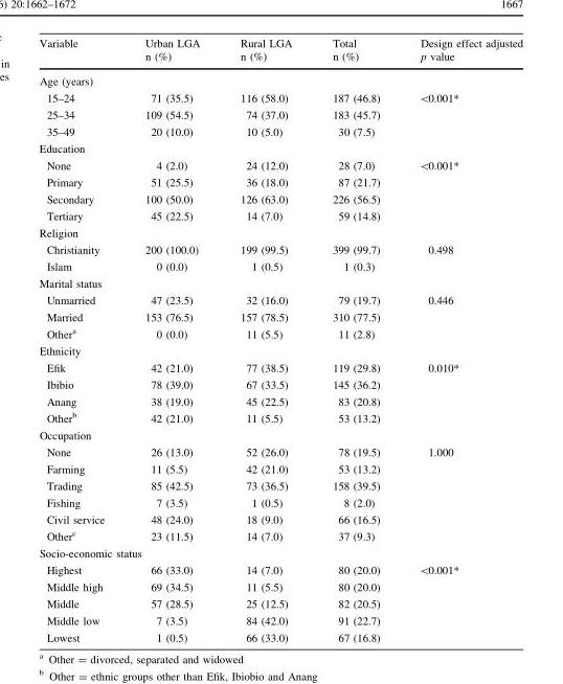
<table><thead><tr><td rowspan="2">Variable</td><td rowspan="2">Urban LGA n (%)</td><td rowspan="2">Rural LGA n (%)</td><td rowspan="2">Total n (%)</td><td rowspan="2">Design effect adjusted p value</td></tr><tr></tr></thead><tbody><tr><td colspan="5">Age (years)</td></tr><tr><td>15–24</td><td>71 (35.5)</td><td>116 (58.0)</td><td>187 (46.8)</td><td rowspan="3">&lt;0.001*</td></tr><tr><td>25–34</td><td>109 (54.5)</td><td>74 (37.0)</td><td>183 (45.7)</td></tr><tr><td>35–49</td><td>20 (10.0)</td><td>10 (5.0)</td><td>30 (7.5)</td></tr><tr><td colspan="5">Education</td></tr><tr><td>None</td><td>4 (2.0)</td><td>24 (12.0)</td><td>28 (7.0)</td><td rowspan="4">&lt;0.001*</td></tr><tr><td>Primary</td><td>51 (25.5)</td><td>36 (18.0)</td><td>87 (21.7)</td></tr><tr><td>Secondary</td><td>100 (50.0)</td><td>126 (63.0)</td><td>226 (56.5)</td></tr><tr><td>Tertiary</td><td>45 (22.5)</td><td>14 (7.0)</td><td>59 (14.8)</td></tr><tr><td colspan="5">Religion</td></tr><tr><td>Christianity</td><td>200 (100.0)</td><td>199 (99.5)</td><td>399 (99.7)</td><td rowspan="2">0.498</td></tr><tr><td>Islam</td><td>0 (0.0)</td><td>1 (0.5)</td><td>1 (0.3)</td></tr><tr><td colspan="5">Marital status</td></tr><tr><td>Unmarried</td><td>47 (23.5)</td><td>32 (16.0)</td><td>79 (19.7)</td><td rowspan="3">0.446</td></tr><tr><td>Married</td><td>153 (76.5)</td><td>157 (78.5)</td><td>310 (77.5)</td></tr><tr><td>Other<sup>a</sup></td><td>0 (0.0)</td><td>11 (5.5)</td><td>11 (2.8)</td></tr><tr><td colspan="5">Ethnicity</td></tr><tr><td>Efik</td><td>42 (21.0)</td><td>77 (38.5)</td><td>119 (29.8)</td><td rowspan="4">0.010*</td></tr><tr><td>Ibibio</td><td>78 (39.0)</td><td>67 (33.5)</td><td>145 (36.2)</td></tr><tr><td>Anang</td><td>38 (19.0)</td><td>45 (22.5)</td><td>83 (20.8)</td></tr><tr><td>Other<sup>b</sup></td><td>42 (21.0)</td><td>11 (5.5)</td><td>53 (13.2)</td></tr><tr><td colspan="5">Occupation</td></tr><tr><td>None</td><td>26 (13.0)</td><td>52 (26.0)</td><td>78 (19.5)</td><td rowspan="6">1.000</td></tr><tr><td>Farming</td><td>11 (5.5)</td><td>42 (21.0)</td><td>53 (13.2)</td></tr><tr><td>Trading</td><td>85 (42.5)</td><td>73 (36.5)</td><td>158 (39.5)</td></tr><tr><td>Fishing</td><td>7 (3.5)</td><td>1 (0.5)</td><td>8 (2.0)</td></tr><tr><td>Civil service</td><td>48 (24.0)</td><td>18 (9.0)</td><td>66 (16.5)</td></tr><tr><td>Other<sup>c</sup></td><td>23 (11.5)</td><td>14 (7.0)</td><td>37 (9.3)</td></tr><tr><td colspan="5">Socio-economic status</td></tr><tr><td>Highest</td><td>66 (33.0)</td><td>14 (7.0)</td><td>80 (20.0)</td><td rowspan="5">&lt;0.001*</td></tr><tr><td>Middle high</td><td>69 (34.5)</td><td>11 (5.5)</td><td>80 (20.0)</td></tr><tr><td>Middle</td><td>57 (28.5)</td><td>25 (12.5)</td><td>82 (20.5)</td></tr><tr><td>Middle low</td><td>7 (3.5)</td><td>84 (42.0)</td><td>91 (22.7)</td></tr><tr><td>Lowest</td><td>1 (0.5)</td><td>66 (33.0)</td><td>67 (16.8)</td></tr></tbody></table>